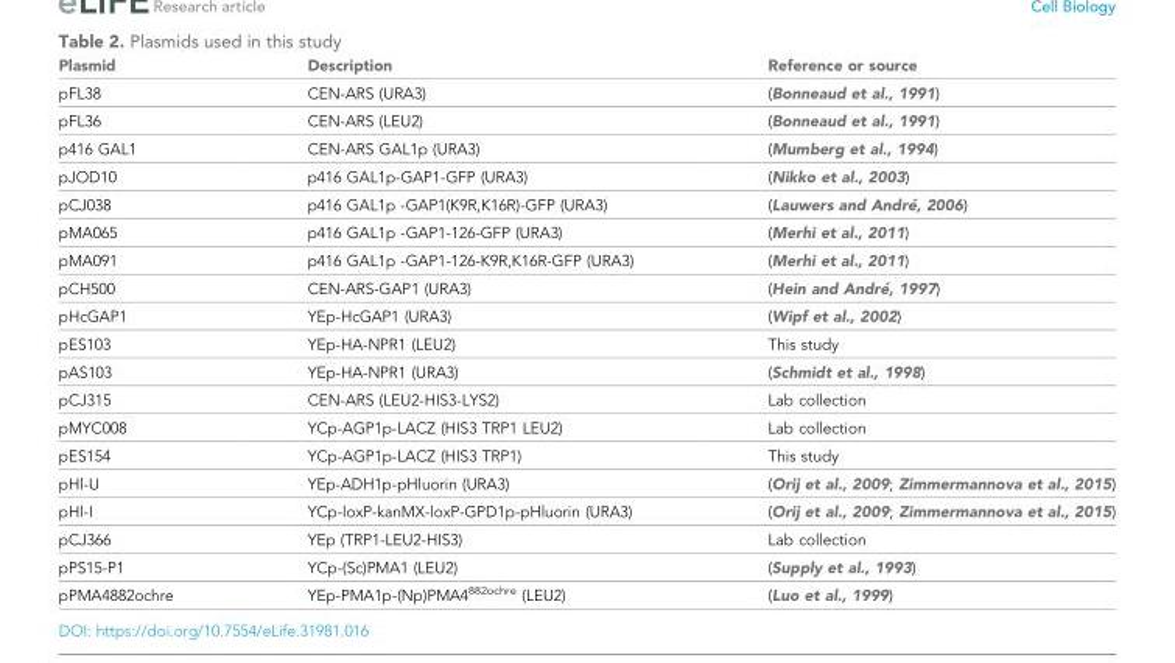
<table><thead><tr><td>Plasmid</td><td>Description</td><td>Reference or source</td></tr></thead><tbody><tr><td>pFL38</td><td>CEN-ARS (URA3)</td><td>(Bonneaud et al., 1991)</td></tr><tr><td>pFL36</td><td>CEN-ARS (LEU2)</td><td>(Bonneaud et al., 1991)</td></tr><tr><td>p416 GAL1</td><td>CEN-ARS GAL1p (URA3)</td><td>(Mumberg et al., 1994)</td></tr><tr><td>pJOD10</td><td>p416 GAL1p-GAP1-GFP (URA3)</td><td>(Nikko et al., 2003)</td></tr><tr><td>pCJ038</td><td>p416 GAL1p -GAP1(K9R,K16R)-GFP (URA3)</td><td>(Lauwers and Andre´, 2006)</td></tr><tr><td>pMA065</td><td>p416 GAL1p -GAP1-126-GFP (URA3)</td><td>(Merhi et al., 2011)</td></tr><tr><td>pMA091</td><td>p416 GAL1p -GAP1-126-K9R,K16R-GFP (URA3)</td><td>(Merhi et al., 2011)</td></tr><tr><td>pCH500</td><td>CEN-ARS-GAP1 (URA3)</td><td>(Hein and Andre´, 1997)</td></tr><tr><td>pHcGAP1</td><td>YEp-HcGAP1 (URA3)</td><td>(Wipf et al., 2002)</td></tr><tr><td>pES103</td><td>YEp-HA-NPR1 (LEU2)</td><td>This study</td></tr><tr><td>pAS103</td><td>YEp-HA-NPR1 (URA3)</td><td>(Schmidt et al., 1998)</td></tr><tr><td>pCJ315</td><td>CEN-ARS (LEU2-HIS3-LYS2)</td><td>Lab collection</td></tr><tr><td>pMYC008</td><td>YCp-AGP1p-LACZ (HIS3 TRP1 LEU2)</td><td>Lab collection</td></tr><tr><td>pES154</td><td>YCp-AGP1p-LACZ (HIS3 TRP1)</td><td>This study</td></tr><tr><td>pHl-U</td><td>YEp-ADH1p-pHluorin (URA3)</td><td>(Orij et al., 2009; Zimmermannova et al., 2015)</td></tr><tr><td>pHl-I</td><td>YCp-loxP-kanMX-loxP-GPD1p-pHluorin (URA3)</td><td>(Orij et al., 2009; Zimmermannova et al., 2015)</td></tr><tr><td>pCJ366</td><td>YEp (TRP1-LEU2-HIS3)</td><td>Lab collection</td></tr><tr><td>pPS15-P1</td><td>YCp-(Sc)PMA1 (LEU2)</td><td>(Supply et al., 1993)</td></tr><tr><td>pPMA4882ochre</td><td>YEp-PMA1p-(Np)PMA4<sup>882ochre</sup> (LEU2)</td><td>(Luo et al., 1999)</td></tr></tbody></table>